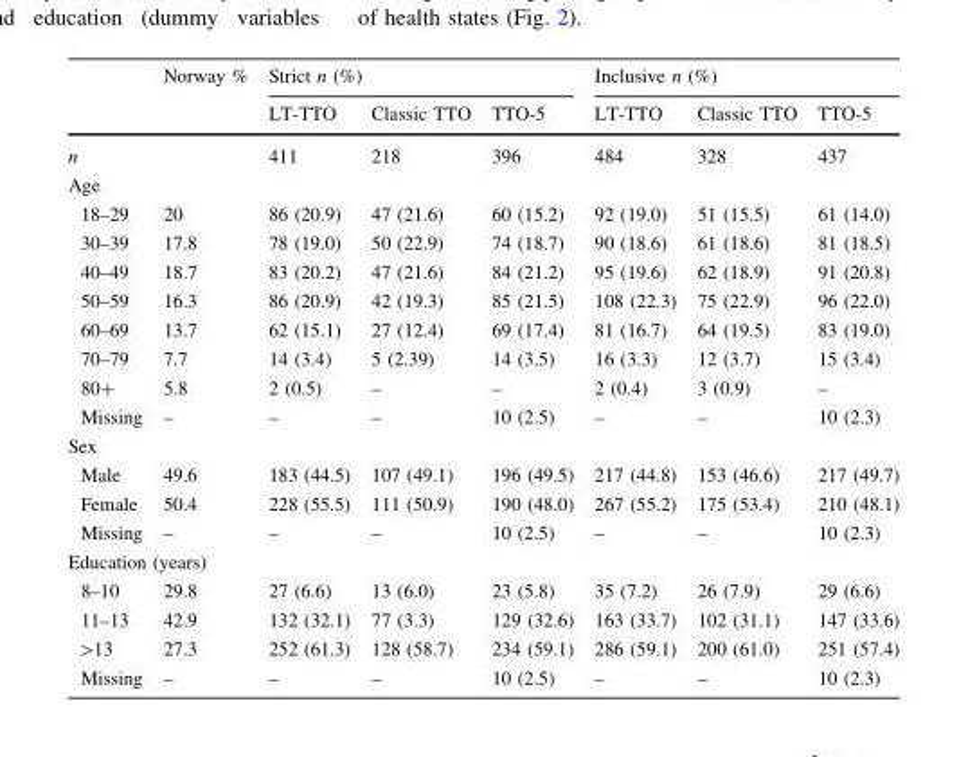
<table><thead><tr><td rowspan="2"></td><td rowspan="2">Norway %</td><td colspan="3">Strict n (%)</td><td colspan="3">Inclusive n (%)</td></tr><tr><td>LT-TTO</td><td>Classic TTO</td><td>TTO-5</td><td>LT-TTO</td><td>Classic TTO</td><td>TTO-5</td></tr></thead><tbody><tr><td>n</td><td></td><td>411</td><td>218</td><td>396</td><td>484</td><td>328</td><td>437</td></tr><tr><td colspan="8">Age</td></tr><tr><td>18–29</td><td>20</td><td>86 (20.9)</td><td>47 (21.6)</td><td>60 (15.2)</td><td>92 (19.0)</td><td>51 (15.5)</td><td>61 (14.0)</td></tr><tr><td>30–39</td><td>17.8</td><td>78 (19.0)</td><td>50 (22.9)</td><td>74 (18.7)</td><td>90 (18.6)</td><td>61 (18.6)</td><td>81 (18.5)</td></tr><tr><td>40–49</td><td>18.7</td><td>83 (20.2)</td><td>47 (21.6)</td><td>84 (21.2)</td><td>95 (19.6)</td><td>62 (18.9)</td><td>91 (20.8)</td></tr><tr><td>50–59</td><td>16.3</td><td>86 (20.9)</td><td>42 (19.3)</td><td>85 (21.5)</td><td>108 (22.3)</td><td>75 (22.9)</td><td>96 (22.0)</td></tr><tr><td>60–69</td><td>13.7</td><td>62 (15.1)</td><td>27 (12.4)</td><td>69 (17.4)</td><td>81 (16.7)</td><td>64 (19.5)</td><td>83 (19.0)</td></tr><tr><td>70–79</td><td>7.7</td><td>14 (3.4)</td><td>5 (2.39)</td><td>14 (3.5)</td><td>16 (3.3)</td><td>12 (3.7)</td><td>15 (3.4)</td></tr><tr><td>80+</td><td>5.8</td><td>2 (0.5)</td><td>–</td><td>–</td><td>2 (0.4)</td><td>3 (0.9)</td><td>–</td></tr><tr><td>Missing</td><td>–</td><td>–</td><td>–</td><td>10 (2.5)</td><td>–</td><td>–</td><td>10 (2.3)</td></tr><tr><td colspan="8">Sex</td></tr><tr><td>Male</td><td>49.6</td><td>183 (44.5)</td><td>107 (49.1)</td><td>196 (49.5)</td><td>217 (44.8)</td><td>153 (46.6)</td><td>217 (49.7)</td></tr><tr><td>Female</td><td>50.4</td><td>228 (55.5)</td><td>111 (50.9)</td><td>190 (48.0)</td><td>267 (55.2)</td><td>175 (53.4)</td><td>210 (48.1)</td></tr><tr><td>Missing</td><td>–</td><td>–</td><td>–</td><td>10 (2.5)</td><td>–</td><td>–</td><td>10 (2.3)</td></tr><tr><td colspan="8">Education (years)</td></tr><tr><td>8–10</td><td>29.8</td><td>27 (6.6)</td><td>13 (6.0)</td><td>23 (5.8)</td><td>35 (7.2)</td><td>26 (7.9)</td><td>29 (6.6)</td></tr><tr><td>11–13</td><td>42.9</td><td>132 (32.1)</td><td>77 (3.3)</td><td>129 (32.6)</td><td>163 (33.7)</td><td>102 (31.1)</td><td>147 (33.6)</td></tr><tr><td>&gt;13</td><td>27.3</td><td>252 (61.3)</td><td>128 (58.7)</td><td>234 (59.1)</td><td>286 (59.1)</td><td>200 (61.0)</td><td>251 (57.4)</td></tr><tr><td>Missing</td><td>–</td><td>–</td><td>–</td><td>10 (2.5)</td><td>–</td><td>–</td><td>10 (2.3)</td></tr></tbody></table>